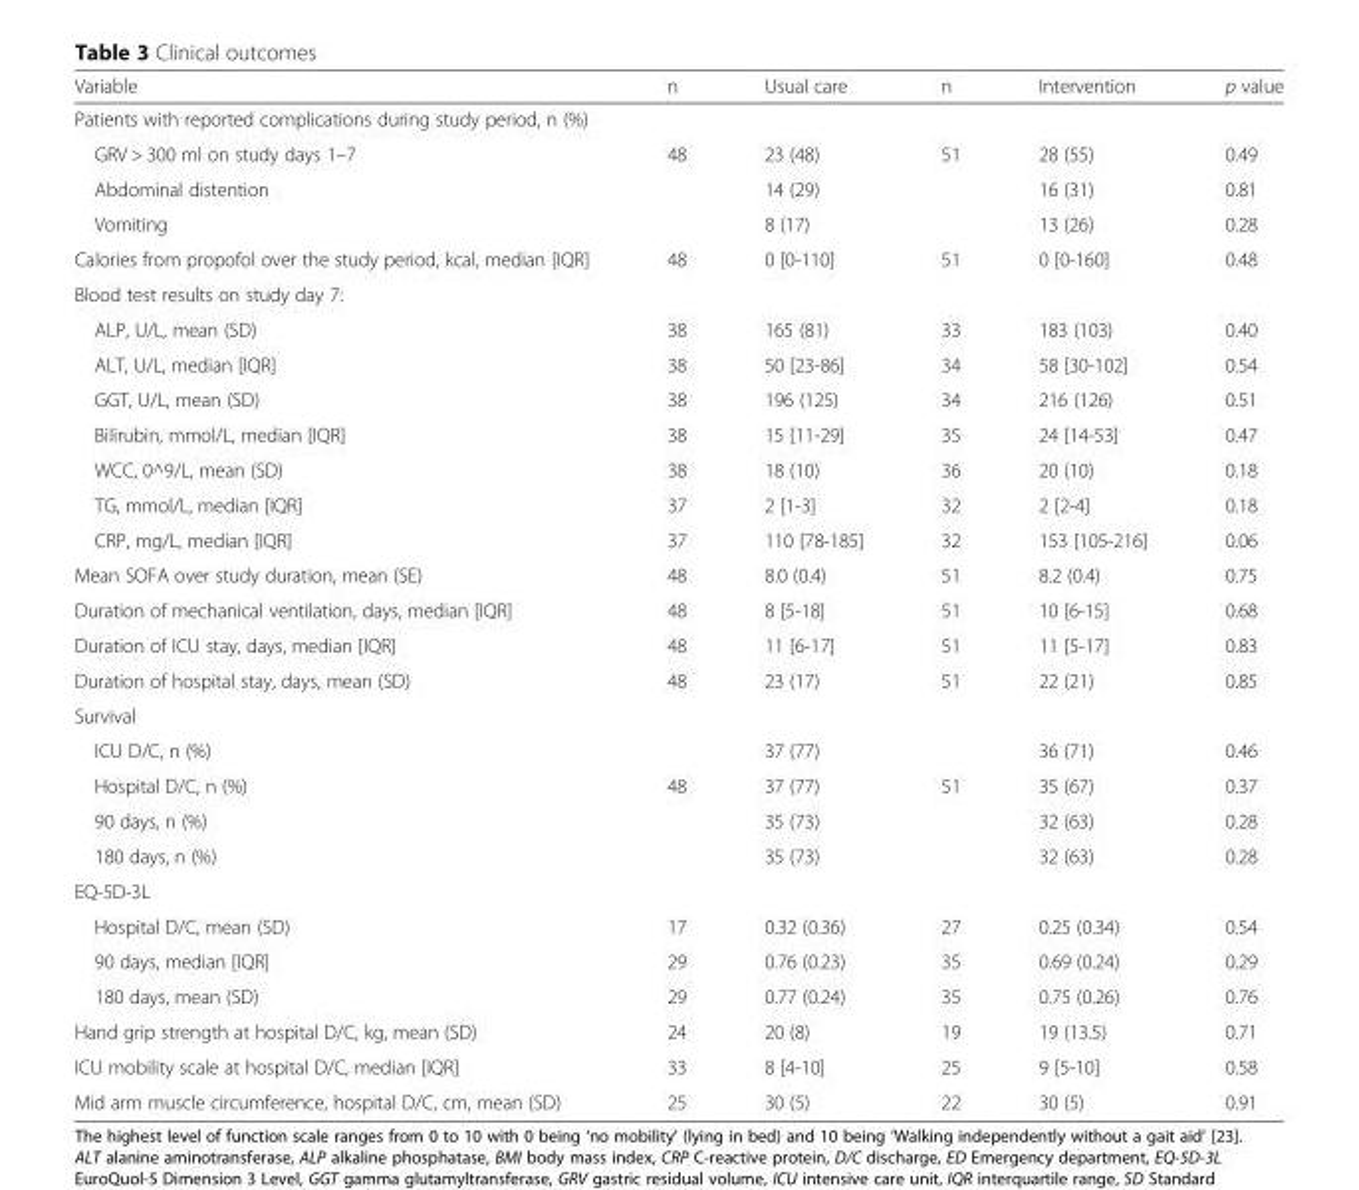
<table><thead><tr><td>Variable</td><td>n</td><td>Usual care</td><td>n</td><td>Intervention</td><td>p value</td></tr></thead><tbody><tr><td colspan="6">Patients with reported complications during study period, n (%)</td></tr><tr><td>GRV &gt; 300 ml on study days 1–7</td><td>48</td><td>23 (48)</td><td>51</td><td>28 (55)</td><td>0.49</td></tr><tr><td>Abdominal distention</td><td></td><td>14 (29)</td><td></td><td>16 (31)</td><td>0.81</td></tr><tr><td>Vomiting</td><td></td><td>8 (17)</td><td></td><td>13 (26)</td><td>0.28</td></tr><tr><td>Calories from propofol over the study period, kcal, median [IQR]</td><td>48</td><td>0 [0-110]</td><td>51</td><td>0 [0-160]</td><td>0.48</td></tr><tr><td colspan="6">Blood test results on study day 7:</td></tr><tr><td>ALP, U/L, mean (SD)</td><td>38</td><td>165 (81)</td><td>33</td><td>183 (103)</td><td>0.40</td></tr><tr><td>ALT, U/L, median [IQR]</td><td>38</td><td>50 [23-86]</td><td>34</td><td>58 [30-102]</td><td>0.54</td></tr><tr><td>GGT, U/L, mean (SD)</td><td>38</td><td>196 (125)</td><td>34</td><td>216 (126)</td><td>0.51</td></tr><tr><td>Bilirubin, mmol/L, median [IQR]</td><td>38</td><td>15 [11-29]</td><td>35</td><td>24 [14-53]</td><td>0.47</td></tr><tr><td>WCC, 0^9/L, mean (SD)</td><td>38</td><td>18 (10)</td><td>36</td><td>20 (10)</td><td>0.18</td></tr><tr><td>TG, mmol/L, median [IQR]</td><td>37</td><td>2 [1-3]</td><td>32</td><td>2 [2-4]</td><td>0.18</td></tr><tr><td>CRP, mg/L, median [IQR]</td><td>37</td><td>110 [78-185]</td><td>32</td><td>153 [105-216]</td><td>0.06</td></tr><tr><td>Mean SOFA over study duration, mean (SE)</td><td>48</td><td>8.0 (0.4)</td><td>51</td><td>8.2 (0.4)</td><td>0.75</td></tr><tr><td>Duration of mechanical ventilation, days, median [IQR]</td><td>48</td><td>8 [5-18]</td><td>51</td><td>10 [6-15]</td><td>0.68</td></tr><tr><td>Duration of ICU stay, days, median [IQR]</td><td>48</td><td>11 [6-17]</td><td>51</td><td>11 [5-17]</td><td>0.83</td></tr><tr><td>Duration of hospital stay, days, mean (SD)</td><td>48</td><td>23 (17)</td><td>51</td><td>22 (21)</td><td>0.85</td></tr><tr><td colspan="6">Survival</td></tr><tr><td>ICU D/C, n (%)</td><td></td><td>37 (77)</td><td></td><td>36 (71)</td><td>0.46</td></tr><tr><td>Hospital D/C, n (%)</td><td>48</td><td>37 (77)</td><td>51</td><td>35 (67)</td><td>0.37</td></tr><tr><td>90 days, n (%)</td><td></td><td>35 (73)</td><td></td><td>32 (63)</td><td>0.28</td></tr><tr><td>180 days, n (%)</td><td></td><td>35 (73)</td><td></td><td>32 (63)</td><td>0.28</td></tr><tr><td colspan="6">EQ-5D-3L</td></tr><tr><td>Hospital D/C, mean (SD)</td><td>17</td><td>0.32 (0.36)</td><td>27</td><td>0.25 (0.34)</td><td>0.54</td></tr><tr><td>90 days, median [IQR]</td><td>29</td><td>0.76 (0.23)</td><td>35</td><td>0.69 (0.24)</td><td>0.29</td></tr><tr><td>180 days, mean (SD)</td><td>29</td><td>0.77 (0.24)</td><td>35</td><td>0.75 (0.26)</td><td>0.76</td></tr><tr><td>Hand grip strength at hospital D/C, kg, mean (SD)</td><td>24</td><td>20 (8)</td><td>19</td><td>19 (13.5)</td><td>0.71</td></tr><tr><td>ICU mobility scale at hospital D/C, median [IQR]</td><td>33</td><td>8 [4-10]</td><td>25</td><td>9 [5-10]</td><td>0.58</td></tr><tr><td>Mid arm muscle circumference, hospital D/C, cm, mean (SD)</td><td>25</td><td>30 (5)</td><td>22</td><td>30 (5)</td><td>0.91</td></tr></tbody></table>